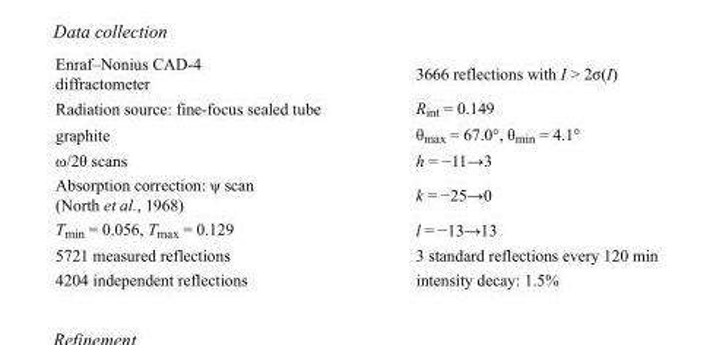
<table><tbody><tr><td>Enraf–Nonius CAD-4 diffractometer</td><td>3666 reflections with I &gt; 2σ(I)</td></tr><tr><td>Radiation source: fine-focus sealed tube</td><td>R<sub>int</sub> = 0.149</td></tr><tr><td>graphite</td><td>θ<sub>max</sub> = 67.0°, θ<sub>min</sub> = 4.1°</td></tr><tr><td>ω/2θ scans</td><td>h = −11→3</td></tr><tr><td>Absorption correction: ψ scan (North et al., 1968)</td><td>k = −25→0</td></tr><tr><td>T<sub>min</sub> = 0.056, T<sub>max</sub> = 0.129</td><td>l = −13→13</td></tr><tr><td>5721 measured reflections</td><td>3 standard reflections every 120 min</td></tr><tr><td>4204 independent reflections</td><td>intensity decay: 1.5%</td></tr></tbody></table>